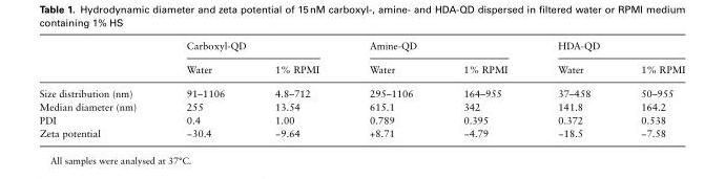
<table><thead><tr><td rowspan="2"></td><td colspan="2">Carboxyl-QD</td><td colspan="2">Amine-QD</td><td colspan="2">HDA-QD</td></tr><tr><td>Water</td><td>1% RPMI</td><td>Water</td><td>1% RPMI</td><td>Water</td><td>1% RPMI</td></tr></thead><tbody><tr><td>Size distribution (nm)</td><td>91–1106</td><td>4.8–712</td><td>295–1106</td><td>164–955</td><td>37–458</td><td>50–955</td></tr><tr><td>Median diameter (nm)</td><td>255</td><td>13.54</td><td>615.1</td><td>342</td><td>141.8</td><td>164.2</td></tr><tr><td>PDI</td><td>0.4</td><td>1.00</td><td>0.789</td><td>0.395</td><td>0.372</td><td>0.538</td></tr><tr><td>Zeta potential</td><td>−30.4</td><td>−9.64</td><td>+8.71</td><td>−4.79</td><td>−18.5</td><td>−7.58</td></tr></tbody></table>